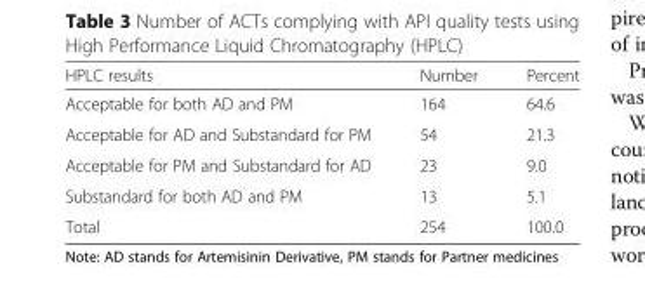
<table><thead><tr><td>HPLC results</td><td>Number</td><td>Percent</td></tr></thead><tbody><tr><td>Acceptable for both AD and PM</td><td>164</td><td>64.6</td></tr><tr><td>Acceptable for AD and Substandard for PM</td><td>54</td><td>21.3</td></tr><tr><td>Acceptable for PM and Substandard for AD</td><td>23</td><td>9.0</td></tr><tr><td>Substandard for both AD and PM</td><td>13</td><td>5.1</td></tr><tr><td>Total</td><td>254</td><td>100.0</td></tr></tbody></table>